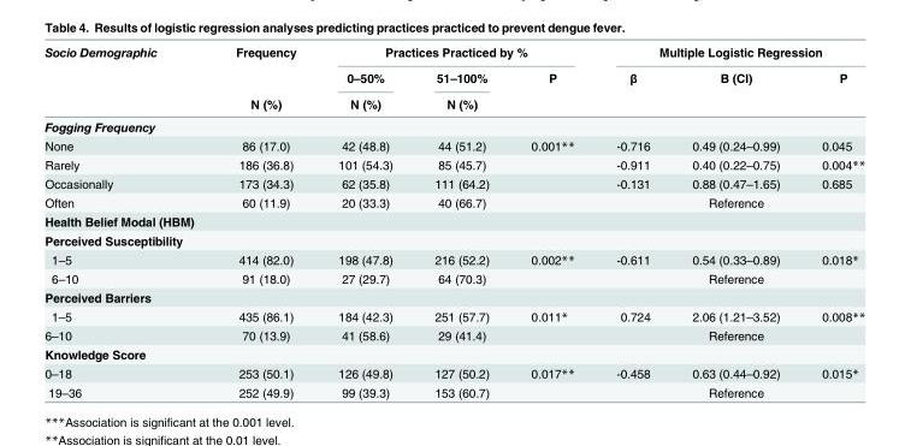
<table><thead><tr><td rowspan="3">Socio Demographic</td><td rowspan="3">Frequency N (%)</td><td colspan="3">Practices Practiced by %</td><td colspan="3">Multiple Logistic Regression</td></tr><tr><td rowspan="2">0–50% N (%)</td><td rowspan="2">51–100% N (%)</td><td rowspan="2">P</td><td rowspan="2">β</td><td rowspan="2">B (CI)</td><td rowspan="2">P</td></tr><tr></tr></thead><tbody><tr><td colspan="8">Fogging Frequency</td></tr><tr><td>None</td><td>86 (17.0)</td><td>42 (48.8)</td><td>44 (51.2)</td><td>0.001**</td><td>-0.716</td><td>0.49 (0.24–0.99)</td><td>0.045</td></tr><tr><td>Rarely</td><td>186 (36.8)</td><td>101 (54.3)</td><td>85 (45.7)</td><td></td><td>-0.911</td><td>0.40 (0.22–0.75)</td><td>0.004**</td></tr><tr><td>Occasionally</td><td>173 (34.3)</td><td>62 (35.8)</td><td>111 (64.2)</td><td></td><td>-0.131</td><td>0.88 (0.47–1.65)</td><td>0.685</td></tr><tr><td>Often</td><td>60 (11.9)</td><td>20 (33.3)</td><td>40 (66.7)</td><td></td><td></td><td>Reference</td><td></td></tr><tr><td colspan="8">Health Belief Modal (HBM)</td></tr><tr><td colspan="8">Perceived Susceptibility</td></tr><tr><td>1–5</td><td>414 (82.0)</td><td>198 (47.8)</td><td>216 (52.2)</td><td>0.002**</td><td>-0.611</td><td>0.54 (0.33–0.89)</td><td>0.018*</td></tr><tr><td>6–10</td><td>91 (18.0)</td><td>27 (29.7)</td><td>64 (70.3)</td><td></td><td></td><td>Reference</td><td></td></tr><tr><td colspan="8">Perceived Barriers</td></tr><tr><td>1–5</td><td>435 (86.1)</td><td>184 (42.3)</td><td>251 (57.7)</td><td>0.011*</td><td>0.724</td><td>2.06 (1.21–3.52)</td><td>0.008**</td></tr><tr><td>6–10</td><td>70 (13.9)</td><td>41 (58.6)</td><td>29 (41.4)</td><td></td><td></td><td>Reference</td><td></td></tr><tr><td colspan="8">Knowledge Score</td></tr><tr><td>0–18</td><td>253 (50.1)</td><td>126 (49.8)</td><td>127 (50.2)</td><td>0.017**</td><td>-0.458</td><td>0.63 (0.44–0.92)</td><td>0.015*</td></tr><tr><td>19–36</td><td>252 (49.9)</td><td>99 (39.3)</td><td>153 (60.7)</td><td></td><td></td><td>Reference</td><td></td></tr></tbody></table>